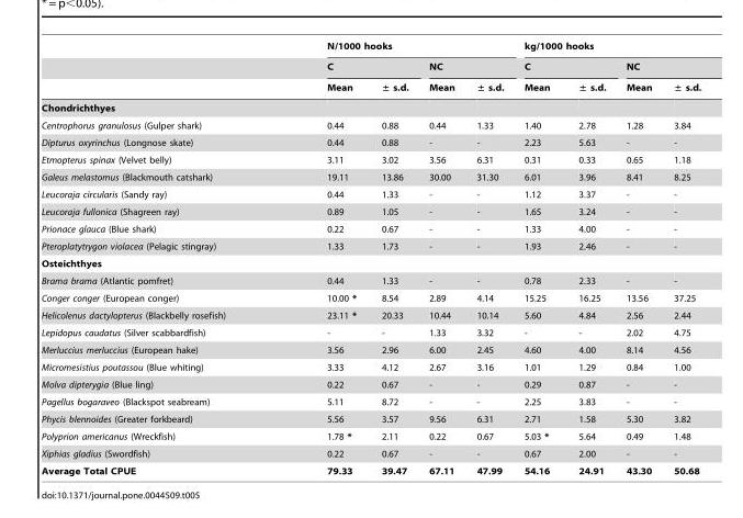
<table><thead><tr><td rowspan="3"></td><td colspan="4">N/1000 hooks</td><td colspan="4">kg/1000 hooks</td></tr><tr><td colspan="2">C</td><td colspan="2">NC</td><td colspan="2">C</td><td colspan="2">NC</td></tr><tr><td>Mean</td><td>± s.d.</td><td>Mean</td><td>± s.d.</td><td>Mean</td><td>± s.d.</td><td>Mean</td><td>± s.d.</td></tr></thead><tbody><tr><td colspan="9">Chondrichthyes</td></tr><tr><td>Centrophorus granulosus (Gulper shark)</td><td>0.44</td><td>0.88</td><td>0.44</td><td>1.33</td><td>1.40</td><td>2.78</td><td>1.28</td><td>3.84</td></tr><tr><td>Dipturus oxyrinchus (Longnose skate)</td><td>0.44</td><td>0.88</td><td>-</td><td>-</td><td>2.23</td><td>5.63</td><td>-</td><td>-</td></tr><tr><td>Etmopterus spinax (Velvet belly)</td><td>3.11</td><td>3.02</td><td>3.56</td><td>6.31</td><td>0.31</td><td>0.33</td><td>0.65</td><td>1.18</td></tr><tr><td>Galeus melastomus (Blackmouth catshark)</td><td>19.11</td><td>13.86</td><td>30.00</td><td>31.30</td><td>6.01</td><td>3.96</td><td>8.41</td><td>8.25</td></tr><tr><td>Leucoraja circularis (Sandy ray)</td><td>0.44</td><td>1.33</td><td>-</td><td>-</td><td>1.12</td><td>3.37</td><td>-</td><td>-</td></tr><tr><td>Leucoraja fullonica (Shagreen ray)</td><td>0.89</td><td>1.05</td><td>-</td><td>-</td><td>1.65</td><td>3.24</td><td>-</td><td>-</td></tr><tr><td>Prionace glauca (Blue shark)</td><td>0.22</td><td>0.67</td><td>-</td><td>-</td><td>1.33</td><td>4.00</td><td>-</td><td>-</td></tr><tr><td>Pteroplatytrygon violacea (Pelagic stingray)</td><td>1.33</td><td>1.73</td><td>-</td><td>-</td><td>1.93</td><td>2.46</td><td>-</td><td>-</td></tr><tr><td colspan="9">Osteichthyes</td></tr><tr><td>Brama brama (Atlantic pomfret)</td><td>0.44</td><td>1.33</td><td>-</td><td>-</td><td>0.78</td><td>2.33</td><td>-</td><td>-</td></tr><tr><td>Conger conger (European conger)</td><td>10.00 *</td><td>8.54</td><td>2.89</td><td>4.14</td><td>15.25</td><td>16.25</td><td>13.56</td><td>37.25</td></tr><tr><td>Helicolenus dactylopterus (Blackbelly rosefish)</td><td>23.11 *</td><td>20.33</td><td>10.44</td><td>10.14</td><td>5.60</td><td>4.84</td><td>2.56</td><td>2.44</td></tr><tr><td>Lepidopus caudatus (Silver scabbardfish)</td><td>-</td><td>-</td><td>1.33</td><td>3.32</td><td>-</td><td>-</td><td>2.02</td><td>4.75</td></tr><tr><td>Merluccius merluccius (European hake)</td><td>3.56</td><td>2.96</td><td>6.00</td><td>2.45</td><td>4.60</td><td>4.00</td><td>8.14</td><td>4.56</td></tr><tr><td>Micromesistius poutassou (Blue whiting)</td><td>3.33</td><td>4.12</td><td>2.67</td><td>3.16</td><td>1.01</td><td>1.29</td><td>0.84</td><td>1.00</td></tr><tr><td>Molva dipterygia (Blue ling)</td><td>0.22</td><td>0.67</td><td>-</td><td>-</td><td>0.29</td><td>0.87</td><td>-</td><td>-</td></tr><tr><td>Pagellus bogaraveo (Blackspot seabream)</td><td>5.11</td><td>8.72</td><td>-</td><td>-</td><td>2.25</td><td>3.83</td><td>-</td><td>-</td></tr><tr><td>Phycis blennoides (Greater forkbeard)</td><td>5.56</td><td>3.57</td><td>9.56</td><td>6.31</td><td>2.71</td><td>1.58</td><td>5.30</td><td>3.82</td></tr><tr><td>Polyprion americanus (Wreckfish)</td><td>1.78 *</td><td>2.11</td><td>0.22</td><td>0.67</td><td>5.03 *</td><td>5.64</td><td>0.49</td><td>1.48</td></tr><tr><td>Xiphias gladius (Swordfish)</td><td>0.22</td><td>0.67</td><td>-</td><td>-</td><td>0.67</td><td>2.00</td><td>-</td><td>-</td></tr><tr><td>Average Total CPUE</td><td>79.33</td><td>39.47</td><td>67.11</td><td>47.99</td><td>54.16</td><td>24.91</td><td>43.30</td><td>50.68</td></tr></tbody></table>